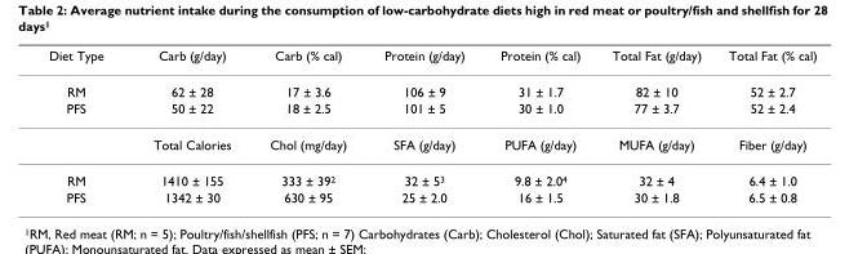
<table><thead><tr><td>Diet Type</td><td>Carb (g/day)</td><td>Carb (% cal)</td><td>Protein (g/day)</td><td>Protein (% cal)</td><td>Total Fat (g/day)</td><td>Total Fat (% cal)</td></tr></thead><tbody><tr><td>RM</td><td>62 ± 28</td><td>17 ± 3.6</td><td>106 ± 9</td><td>31 ± 1.7</td><td>82 ± 10</td><td>52 ± 2.7</td></tr><tr><td rowspan="2">PFS</td><td>50 ± 22</td><td>18 ± 2.5</td><td>101 ± 5</td><td>30 ± 1.0</td><td>77 ± 3.7</td><td>52 ± 2.4</td></tr><tr><td>Total Calories</td><td>Chol (mg/day)</td><td>SFA (g/day)</td><td>PUFA (g/day)</td><td>MUFA (g/day)</td><td>Fiber (g/day)</td></tr><tr><td>RM</td><td>1410 ± 155</td><td>333 ± 39<sup>2</sup></td><td>32 ± 5<sup>3</sup></td><td>9.8 ± 2.0<sup>4</sup></td><td>32 ± 4</td><td>6.4 ± 1.0</td></tr><tr><td>PFS</td><td>1342 ± 30</td><td>630 ± 95</td><td>25 ± 2.0</td><td>16 ± 1.5</td><td>30 ± 1.8</td><td>6.5 ± 0.8</td></tr></tbody></table>